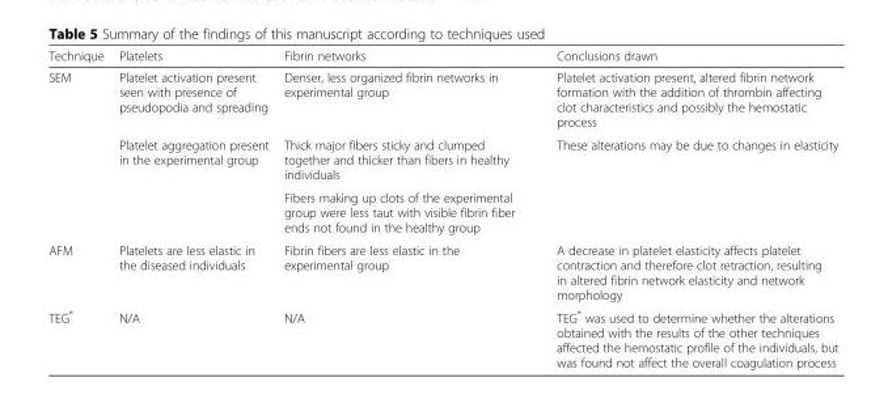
<table><thead><tr><td>Technique</td><td>Platelets</td><td>Fibrin networks</td><td>Conclusions drawn</td></tr></thead><tbody><tr><td rowspan="3">SEM</td><td>Platelet activation present seen with presence of pseudopodia and spreading</td><td>Denser, less organized fibrin networks in experimental group</td><td>Platelet activation present, altered fibrin network formation with the addition of thrombin affecting clot characteristics and possibly the hemostatic process</td></tr><tr><td rowspan="2">Platelet aggregation present in the experimental group</td><td>Thick major fibers sticky and clumped together and thicker than fibers in healthy individuals</td><td rowspan="2">These alterations may be due to changes in elasticity</td></tr><tr><td>Fibers making up clots of the experimental group were less taut with visible fibrin fiber ends not found in the healthy group</td></tr><tr><td>AFM</td><td>Platelets are less elastic in the diseased individuals</td><td>Fibrin fibers are less elastic in the experimental group</td><td>A decrease in platelet elasticity affects platelet contraction and therefore clot retraction, resulting in altered fibrin network elasticity and network morphology</td></tr><tr><td>TEG<sup>®</sup></td><td>N/A</td><td>N/A</td><td>TEG<sup>®</sup> was used to determine whether the alterations obtained with the results of the other techniques affected the hemostatic profile of the individuals, but was found not affect the overall coagulation process</td></tr></tbody></table>